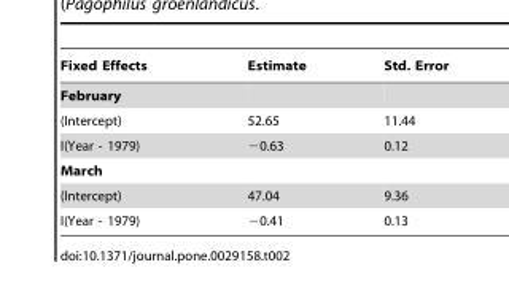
<table><thead><tr><td>Fixed Effects</td><td>Estimate</td><td>Std. Error</td></tr></thead><tbody><tr><td colspan="3">February</td></tr><tr><td>(Intercept)</td><td>52.65</td><td>11.44</td></tr><tr><td>I(Year - 1979)</td><td>−0.63</td><td>0.12</td></tr><tr><td colspan="3">March</td></tr><tr><td>(Intercept)</td><td>47.04</td><td>9.36</td></tr><tr><td>I(Year - 1979)</td><td>−0.41</td><td>0.13</td></tr></tbody></table>